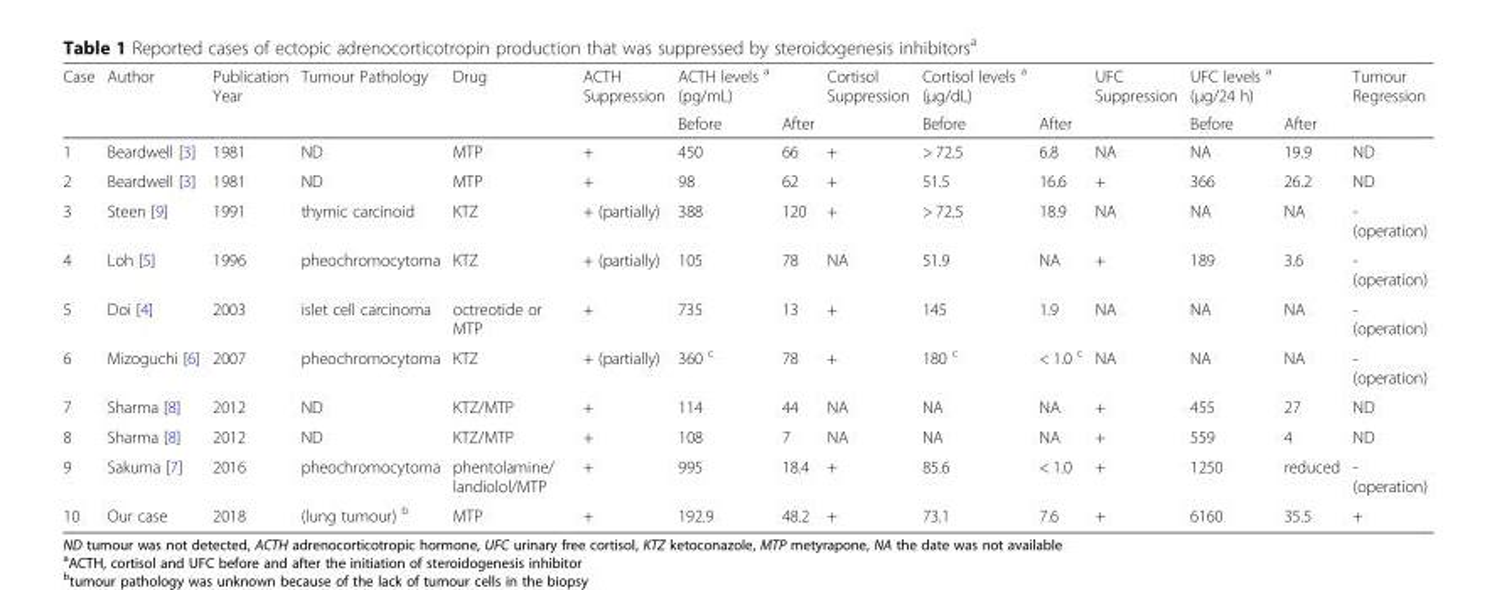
<table><thead><tr><td rowspan="2">Case</td><td rowspan="2">Author</td><td rowspan="2">Publication Year</td><td rowspan="2">Tumour Pathology</td><td rowspan="2">Drug</td><td rowspan="2">ACTH Suppression</td><td rowspan="2">ACTH levels <sup>a</sup> (pg/mL) Before</td><td rowspan="2">After</td><td rowspan="2">Cortisol Suppression</td><td rowspan="2">Cortisol levels <sup>a</sup> (μg/dL) Before</td><td rowspan="2">After</td><td rowspan="2">UFC Suppression</td><td rowspan="2">UFC levels <sup>a</sup> (μg/24 h) Before</td><td rowspan="2">After</td><td rowspan="2">Tumour Regression</td></tr><tr></tr></thead><tbody><tr><td>1</td><td>Beardwell [3]</td><td>1981</td><td>ND</td><td>MTP</td><td>+</td><td>450</td><td>66</td><td>+</td><td>&gt; 72.5</td><td>6.8</td><td>NA</td><td>NA</td><td>19.9</td><td>ND</td></tr><tr><td>2</td><td>Beardwell [3]</td><td>1981</td><td>ND</td><td>MTP</td><td>+</td><td>98</td><td>62</td><td>+</td><td>51.5</td><td>16.6</td><td>+</td><td>366</td><td>26.2</td><td>ND</td></tr><tr><td>3</td><td>Steen [9]</td><td>1991</td><td>thymic carcinoid</td><td>KTZ</td><td>+ (partially)</td><td>388</td><td>120</td><td>+</td><td>&gt; 72.5</td><td>18.9</td><td>NA</td><td>NA</td><td>NA</td><td>- (operation)</td></tr><tr><td>4</td><td>Loh [5]</td><td>1996</td><td>pheochromocytoma</td><td>KTZ</td><td>+ (partially)</td><td>105</td><td>78</td><td>NA</td><td>51.9</td><td>NA</td><td>+</td><td>189</td><td>3.6</td><td>- (operation)</td></tr><tr><td>5</td><td>Doi [4]</td><td>2003</td><td>islet cell carcinoma</td><td>octreotide or MTP</td><td>+</td><td>735</td><td>13</td><td>+</td><td>145</td><td>1.9</td><td>NA</td><td>NA</td><td>NA</td><td>- (operation)</td></tr><tr><td>6</td><td>Mizoguchi [6]</td><td>2007</td><td>pheochromocytoma</td><td>KTZ</td><td>+ (partially)</td><td>360 <sup>c</sup></td><td>78</td><td>+</td><td>180 <sup>c</sup></td><td>&lt; 1.0 <sup>c</sup></td><td>NA</td><td>NA</td><td>NA</td><td>- (operation)</td></tr><tr><td>7</td><td>Sharma [8]</td><td>2012</td><td>ND</td><td>KTZ/MTP</td><td>+</td><td>114</td><td>44</td><td>NA</td><td>NA</td><td>NA</td><td>+</td><td>455</td><td>27</td><td>ND</td></tr><tr><td>8</td><td>Sharma [8]</td><td>2012</td><td>ND</td><td>KTZ/MTP</td><td>+</td><td>108</td><td>7</td><td>NA</td><td>NA</td><td>NA</td><td>+</td><td>559</td><td>4</td><td>ND</td></tr><tr><td>9</td><td>Sakuma [7]</td><td>2016</td><td>pheochromocytoma</td><td>phentolamine/ landiolol/MTP</td><td>+</td><td>995</td><td>18.4</td><td>+</td><td>85.6</td><td>&lt; 1.0</td><td>+</td><td>1250</td><td>reduced</td><td>- (operation)</td></tr><tr><td>10</td><td>Our case</td><td>2018</td><td>(lung tumour) <sup>b</sup></td><td>MTP</td><td>+</td><td>192.9</td><td>48.2</td><td>+</td><td>73.1</td><td>7.6</td><td>+</td><td>6160</td><td>35.5</td><td>+</td></tr></tbody></table>